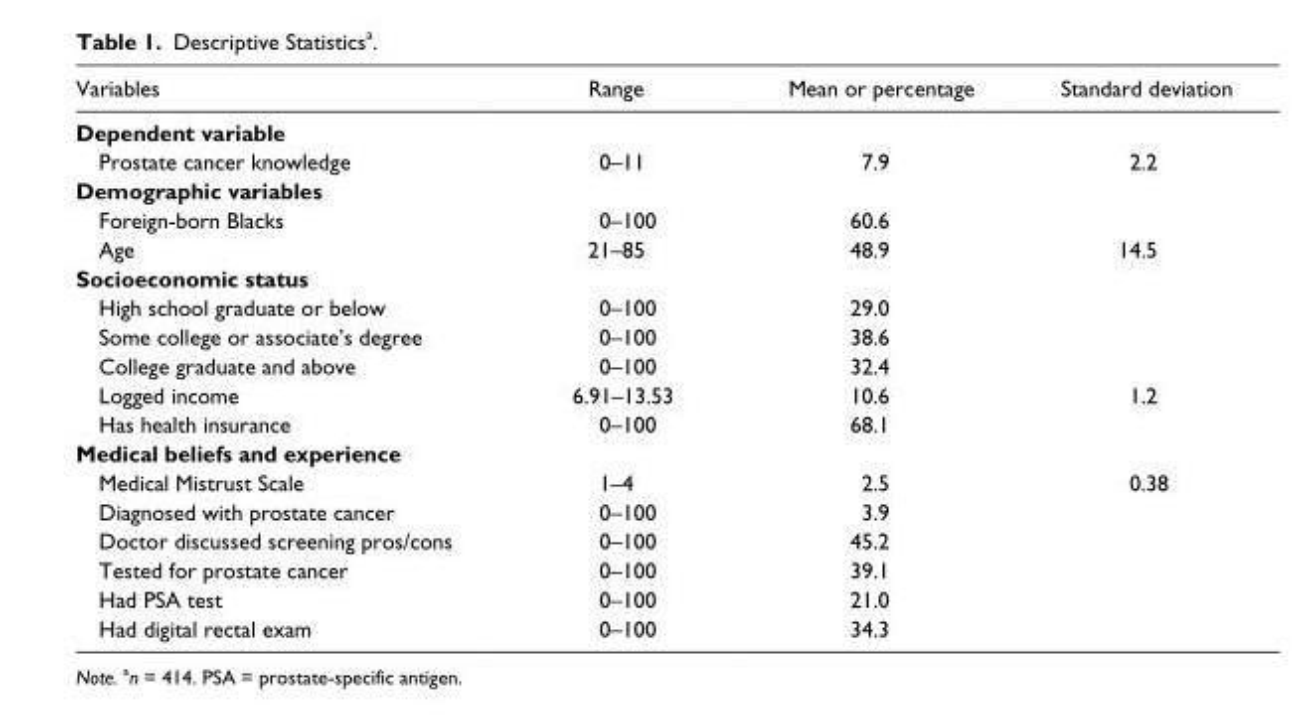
<table><thead><tr><td>Variables</td><td>Range</td><td>Mean or percentage</td><td>Standard deviation</td></tr></thead><tbody><tr><td colspan="4">Dependent variable</td></tr><tr><td>Prostate cancer knowledge</td><td>0–11</td><td>7.9</td><td>2.2</td></tr><tr><td colspan="4">Demographic variables</td></tr><tr><td>Foreign-born Blacks</td><td>0–100</td><td>60.6</td><td></td></tr><tr><td>Age</td><td>21–85</td><td>48.9</td><td>14.5</td></tr><tr><td colspan="4">Socioeconomic status</td></tr><tr><td>High school graduate or below</td><td>0–100</td><td>29.0</td><td></td></tr><tr><td>Some college or associate’s degree</td><td>0–100</td><td>38.6</td><td></td></tr><tr><td>College graduate and above</td><td>0–100</td><td>32.4</td><td></td></tr><tr><td>Logged income</td><td>6.91–13.53</td><td>10.6</td><td>1.2</td></tr><tr><td>Has health insurance</td><td>0–100</td><td>68.1</td><td></td></tr><tr><td colspan="4">Medical beliefs and experience</td></tr><tr><td>Medical Mistrust Scale</td><td>1–4</td><td>2.5</td><td>0.38</td></tr><tr><td>Diagnosed with prostate cancer</td><td>0–100</td><td>3.9</td><td></td></tr><tr><td>Doctor discussed screening pros/cons</td><td>0–100</td><td>45.2</td><td></td></tr><tr><td>Tested for prostate cancer</td><td>0–100</td><td>39.1</td><td></td></tr><tr><td>Had PSA test</td><td>0–100</td><td>21.0</td><td></td></tr><tr><td>Had digital rectal exam</td><td>0–100</td><td>34.3</td><td></td></tr></tbody></table>